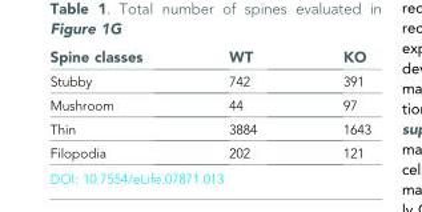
<table><thead><tr><td>Spine classes</td><td>WT</td><td>KO</td></tr></thead><tbody><tr><td>Stubby</td><td>742</td><td>391</td></tr><tr><td>Mushroom</td><td>44</td><td>97</td></tr><tr><td>Thin</td><td>3884</td><td>1643</td></tr><tr><td>Filopodia</td><td>202</td><td>121</td></tr></tbody></table>